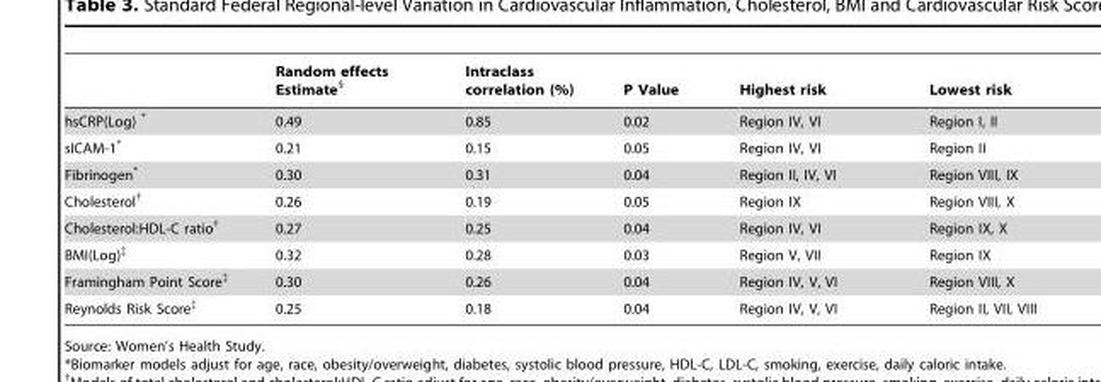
<table><thead><tr><td></td><td>Random effects Estimate§</td><td>Intraclass correlation (%)</td><td>P Value</td><td>Highest risk</td><td>Lowest risk</td></tr></thead><tbody><tr><td>hsCRP(Log) *</td><td>0.49</td><td>0.85</td><td>0.02</td><td>Region IV, VI</td><td>Region I, II</td></tr><tr><td>sICAM-1*</td><td>0.21</td><td>0.15</td><td>0.05</td><td>Region IV, VI</td><td>Region II</td></tr><tr><td>Fibrinogen*</td><td>0.30</td><td>0.31</td><td>0.04</td><td>Region II, IV, VI</td><td>Region VIII, IX</td></tr><tr><td>Cholesterol†</td><td>0.26</td><td>0.19</td><td>0.05</td><td>Region IX</td><td>Region VIII, X</td></tr><tr><td>Cholesterol:HDL-C ratio†</td><td>0.27</td><td>0.25</td><td>0.04</td><td>Region IV, VI</td><td>Region IX, X</td></tr><tr><td>BMI(Log)‡</td><td>0.32</td><td>0.28</td><td>0.03</td><td>Region V, VII</td><td>Region IX</td></tr><tr><td>Framingham Point Score‡</td><td>0.30</td><td>0.26</td><td>0.04</td><td>Region IV, V, VI</td><td>Region VIII, X</td></tr><tr><td>Reynolds Risk Score‡</td><td>0.25</td><td>0.18</td><td>0.04</td><td>Region IV, V, VI</td><td>Region II, VII, VIII</td></tr></tbody></table>